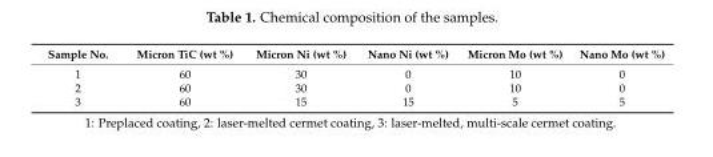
<table><thead><tr><td>Sample No.</td><td>Micron TiC (wt %)</td><td>Micron Ni (wt %)</td><td>Nano Ni (wt %)</td><td>Micron Mo (wt %)</td><td>Nano Mo (wt %)</td></tr></thead><tbody><tr><td>1</td><td>60</td><td>30</td><td>0</td><td>10</td><td>0</td></tr><tr><td>2</td><td>60</td><td>30</td><td>0</td><td>10</td><td>0</td></tr><tr><td>3</td><td>60</td><td>15</td><td>15</td><td>5</td><td>5</td></tr></tbody></table>